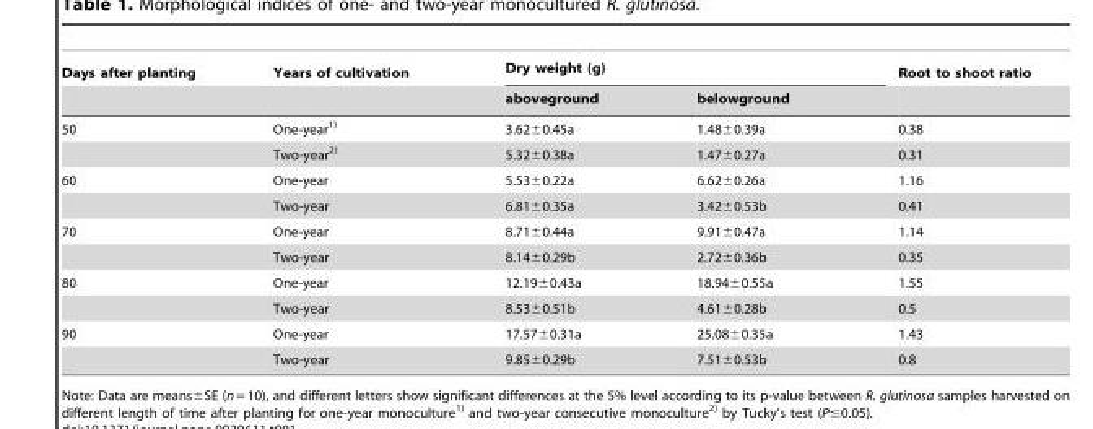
<table><thead><tr><td rowspan="2">Days after planting</td><td rowspan="2">Years of cultivation</td><td colspan="2">Dry weight (g)</td><td rowspan="2">Root to shoot ratio</td></tr><tr><td>aboveground</td><td>belowground</td></tr></thead><tbody><tr><td rowspan="2">50</td><td>One-year<sup>1)</sup></td><td>3.62±0.45a</td><td>1.48±0.39a</td><td>0.38</td></tr><tr><td>Two-year<sup>2)</sup></td><td>5.32±0.38a</td><td>1.47±0.27a</td><td>0.31</td></tr><tr><td rowspan="2">60</td><td>One-year</td><td>5.53±0.22a</td><td>6.62±0.26a</td><td>1.16</td></tr><tr><td>Two-year</td><td>6.81±0.35a</td><td>3.42±0.53b</td><td>0.41</td></tr><tr><td rowspan="2">70</td><td>One-year</td><td>8.71±0.44a</td><td>9.91±0.47a</td><td>1.14</td></tr><tr><td>Two-year</td><td>8.14±0.29b</td><td>2.72±0.36b</td><td>0.35</td></tr><tr><td rowspan="2">80</td><td>One-year</td><td>12.19±0.43a</td><td>18.94±0.55a</td><td>1.55</td></tr><tr><td>Two-year</td><td>8.53±0.51b</td><td>4.61±0.28b</td><td>0.5</td></tr><tr><td rowspan="2">90</td><td>One-year</td><td>17.57±0.31a</td><td>25.08±0.35a</td><td>1.43</td></tr><tr><td>Two-year</td><td>9.85±0.29b</td><td>7.51±0.53b</td><td>0.8</td></tr></tbody></table>